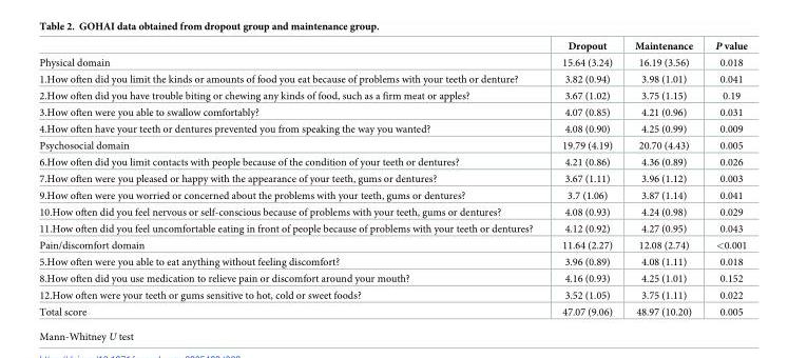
<table><thead><tr><td></td><td>Dropout</td><td>Maintenance</td><td>P value</td></tr></thead><tbody><tr><td>Physical domain</td><td>15.64 (3.24)</td><td>16.19 (3.56)</td><td>0.018</td></tr><tr><td>1.How often did you limit the kinds or amounts of food you eat because of problems with your teeth or denture?</td><td>3.82 (0.94)</td><td>3.98 (1.01)</td><td>0.041</td></tr><tr><td>2.How often did you have trouble biting or chewing any kinds of food, such as a firm meat or apples?</td><td>3.67 (1.02)</td><td>3.75 (1.15)</td><td>0.19</td></tr><tr><td>3.How often were you able to swallow comfortably?</td><td>4.07 (0.85)</td><td>4.21 (0.96)</td><td>0.031</td></tr><tr><td>4.How often have your teeth or dentures prevented you from speaking the way you wanted?</td><td>4.08 (0.90)</td><td>4.25 (0.99)</td><td>0.009</td></tr><tr><td>Psychosocial domain</td><td>19.79 (4.19)</td><td>20.70 (4.43)</td><td>0.005</td></tr><tr><td>6.How often did you limit contacts with people because of the condition of your teeth or dentures?</td><td>4.21 (0.86)</td><td>4.36 (0.89)</td><td>0.026</td></tr><tr><td>7.How often were you pleased or happy with the appearance of your teeth, gums or dentures?</td><td>3.67 (1.11)</td><td>3.96 (1.12)</td><td>0.003</td></tr><tr><td>9.How often were you worried or concerned about the problems with your teeth, gums or dentures?</td><td>3.7 (1.06)</td><td>3.87 (1.14)</td><td>0.041</td></tr><tr><td>10.How often did you feel nervous or self-conscious because of problems with your teeth, gums or dentures?</td><td>4.08 (0.93)</td><td>4.24 (0.98)</td><td>0.029</td></tr><tr><td>11.How often did you feel uncomfortable eating in front of people because of problems with your teeth or dentures?</td><td>4.12 (0.92)</td><td>4.27 (0.95)</td><td>0.043</td></tr><tr><td>Pain/discomfort domain</td><td>11.64 (2.27)</td><td>12.08 (2.74)</td><td>&lt;0.001</td></tr><tr><td>5.How often were you able to eat anything without feeling discomfort?</td><td>3.96 (0.89)</td><td>4.08 (1.11)</td><td>0.018</td></tr><tr><td>8.How often did you use medication to relieve pain or discomfort around your mouth?</td><td>4.16 (0.93)</td><td>4.25 (1.01)</td><td>0.152</td></tr><tr><td>12.How often were your teeth or gums sensitive to hot, cold or sweet foods?</td><td>3.52 (1.05)</td><td>3.75 (1.11)</td><td>0.022</td></tr><tr><td>Total score</td><td>47.07 (9.06)</td><td>48.97 (10.20)</td><td>0.005</td></tr></tbody></table>